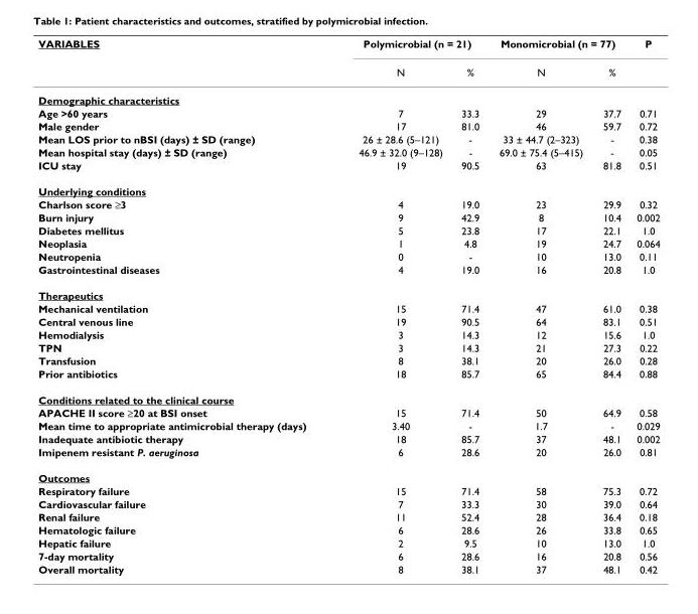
<table><thead><tr><td rowspan="2">VARIABLES</td><td colspan="2">Polymicrobial (n = 21)</td><td colspan="2">Monomicrobial (n = 77)</td><td rowspan="2">P</td></tr><tr><td>N</td><td>%</td><td>N</td><td>%</td></tr></thead><tbody><tr><td colspan="6">Demographic characteristics</td></tr><tr><td>Age &gt;60 years</td><td>7</td><td>33.3</td><td>29</td><td>37.7</td><td>0.71</td></tr><tr><td>Male gender</td><td>17</td><td>81.0</td><td>46</td><td>59.7</td><td>0.72</td></tr><tr><td>Mean LOS prior to nBSI (days) ± SD (range)</td><td>26 ± 28.6 (5–121)</td><td>-</td><td>33 ± 44.7 (2–323)</td><td>-</td><td>0.38</td></tr><tr><td>Mean hospital stay (days) ± SD (range)</td><td>46.9 ± 32.0 (9–128)</td><td>-</td><td>69.0 ± 75.4 (5–415)</td><td>-</td><td>0.05</td></tr><tr><td>ICU stay</td><td>19</td><td>90.5</td><td>63</td><td>81.8</td><td>0.51</td></tr><tr><td colspan="6">Underlying conditions</td></tr><tr><td>Charlson score ≥3</td><td>4</td><td>19.0</td><td>23</td><td>29.9</td><td>0.32</td></tr><tr><td>Burn injury</td><td>9</td><td>42.9</td><td>8</td><td>10.4</td><td>0.002</td></tr><tr><td>Diabetes mellitus</td><td>5</td><td>23.8</td><td>17</td><td>22.1</td><td>1.0</td></tr><tr><td>Neoplasia</td><td>1</td><td>4.8</td><td>19</td><td>24.7</td><td>0.064</td></tr><tr><td>Neutropenia</td><td>0</td><td>-</td><td>10</td><td>13.0</td><td>0.11</td></tr><tr><td>Gastrointestinal diseases</td><td>4</td><td>19.0</td><td>16</td><td>20.8</td><td>1.0</td></tr><tr><td colspan="6">Therapeutics</td></tr><tr><td>Mechanical ventilation</td><td>15</td><td>71.4</td><td>47</td><td>61.0</td><td>0.38</td></tr><tr><td>Central venous line</td><td>19</td><td>90.5</td><td>64</td><td>83.1</td><td>0.51</td></tr><tr><td>Hemodialysis</td><td>3</td><td>14.3</td><td>12</td><td>15.6</td><td>1.0</td></tr><tr><td>TPN</td><td>3</td><td>14.3</td><td>21</td><td>27.3</td><td>0.22</td></tr><tr><td>Transfusion</td><td>8</td><td>38.1</td><td>20</td><td>26.0</td><td>0.28</td></tr><tr><td>Prior antibiotics</td><td>18</td><td>85.7</td><td>65</td><td>84.4</td><td>0.88</td></tr><tr><td colspan="6">Conditions related to the clinical course</td></tr><tr><td>APACHE II score ≥20 at BSI onset</td><td>15</td><td>71.4</td><td>50</td><td>64.9</td><td>0.58</td></tr><tr><td>Mean time to appropriate antimicrobial therapy (days)</td><td>3.40</td><td>-</td><td>1.7</td><td>-</td><td>0.029</td></tr><tr><td>Inadequate antibiotic therapy</td><td>18</td><td>85.7</td><td>37</td><td>48.1</td><td>0.002</td></tr><tr><td>Imipenem resistant P. aeruginosa</td><td>6</td><td>28.6</td><td>20</td><td>26.0</td><td>0.81</td></tr><tr><td colspan="6">Outcomes</td></tr><tr><td>Respiratory failure</td><td>15</td><td>71.4</td><td>58</td><td>75.3</td><td>0.72</td></tr><tr><td>Cardiovascular failure</td><td>7</td><td>33.3</td><td>30</td><td>39.0</td><td>0.64</td></tr><tr><td>Renal failure</td><td>11</td><td>52.4</td><td>28</td><td>36.4</td><td>0.18</td></tr><tr><td>Hematologic failure</td><td>6</td><td>28.6</td><td>26</td><td>33.8</td><td>0.65</td></tr><tr><td>Hepatic failure</td><td>2</td><td>9.5</td><td>10</td><td>13.0</td><td>1.0</td></tr><tr><td>7-day mortality</td><td>6</td><td>28.6</td><td>16</td><td>20.8</td><td>0.56</td></tr><tr><td>Overall mortality</td><td>8</td><td>38.1</td><td>37</td><td>48.1</td><td>0.42</td></tr></tbody></table>